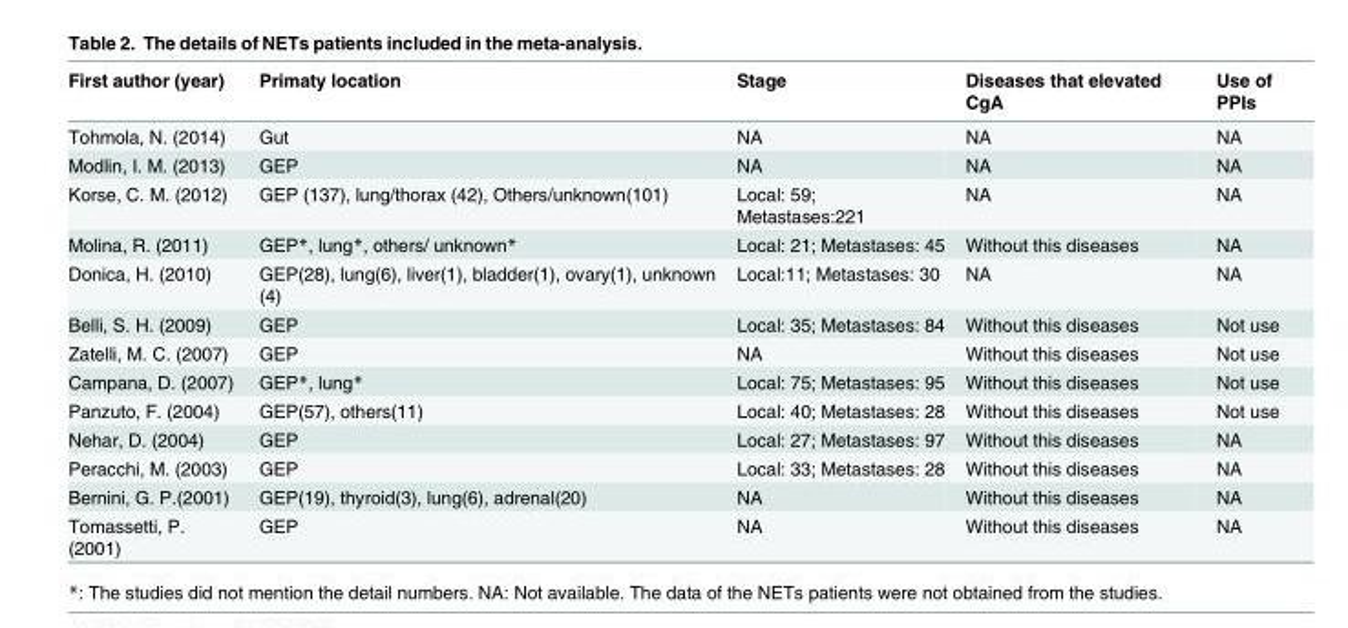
<table><thead><tr><td>First author (year)</td><td>Primaty location</td><td>Stage</td><td>Diseases that elevated CgA</td><td>Use of PPIs</td></tr></thead><tbody><tr><td>Tohmola, N. (2014)</td><td>Gut</td><td>NA</td><td>NA</td><td>NA</td></tr><tr><td>Modlin, I. M. (2013)</td><td>GEP</td><td>NA</td><td>NA</td><td>NA</td></tr><tr><td>Korse, C. M. (2012)</td><td>GEP (137), lung/thorax (42), Others/unknown(101)</td><td>Local: 59; Metastases:221</td><td>NA</td><td>NA</td></tr><tr><td>Molina, R. (2011)</td><td>GEP*, lung*, others/ unknown*</td><td>Local: 21; Metastases: 45</td><td>Without this diseases</td><td>NA</td></tr><tr><td>Donica, H. (2010)</td><td>GEP(28), lung(6), liver(1), bladder(1), ovary(1), unknown (4)</td><td>Local:11; Metastases: 30</td><td>NA</td><td>NA</td></tr><tr><td>Belli, S. H. (2009)</td><td>GEP</td><td>Local: 35; Metastases: 84</td><td>Without this diseases</td><td>Not use</td></tr><tr><td>Zatelli, M. C. (2007)</td><td>GEP</td><td>NA</td><td>Without this diseases</td><td>Not use</td></tr><tr><td>Campana, D. (2007)</td><td>GEP*, lung*</td><td>Local: 75; Metastases: 95</td><td>Without this diseases</td><td>Not use</td></tr><tr><td>Panzuto, F. (2004)</td><td>GEP(57), others(11)</td><td>Local: 40; Metastases: 28</td><td>Without this diseases</td><td>Not use</td></tr><tr><td>Nehar, D. (2004)</td><td>GEP</td><td>Local: 27; Metastases: 97</td><td>Without this diseases</td><td>NA</td></tr><tr><td>Peracchi, M. (2003)</td><td>GEP</td><td>Local: 33; Metastases: 28</td><td>Without this diseases</td><td>NA</td></tr><tr><td>Bernini, G. P.(2001)</td><td>GEP(19), thyroid(3), lung(6), adrenal(20)</td><td>NA</td><td>Without this diseases</td><td>NA</td></tr><tr><td>Tomassetti, P. (2001)</td><td>GEP</td><td>NA</td><td>Without this diseases</td><td>NA</td></tr></tbody></table>